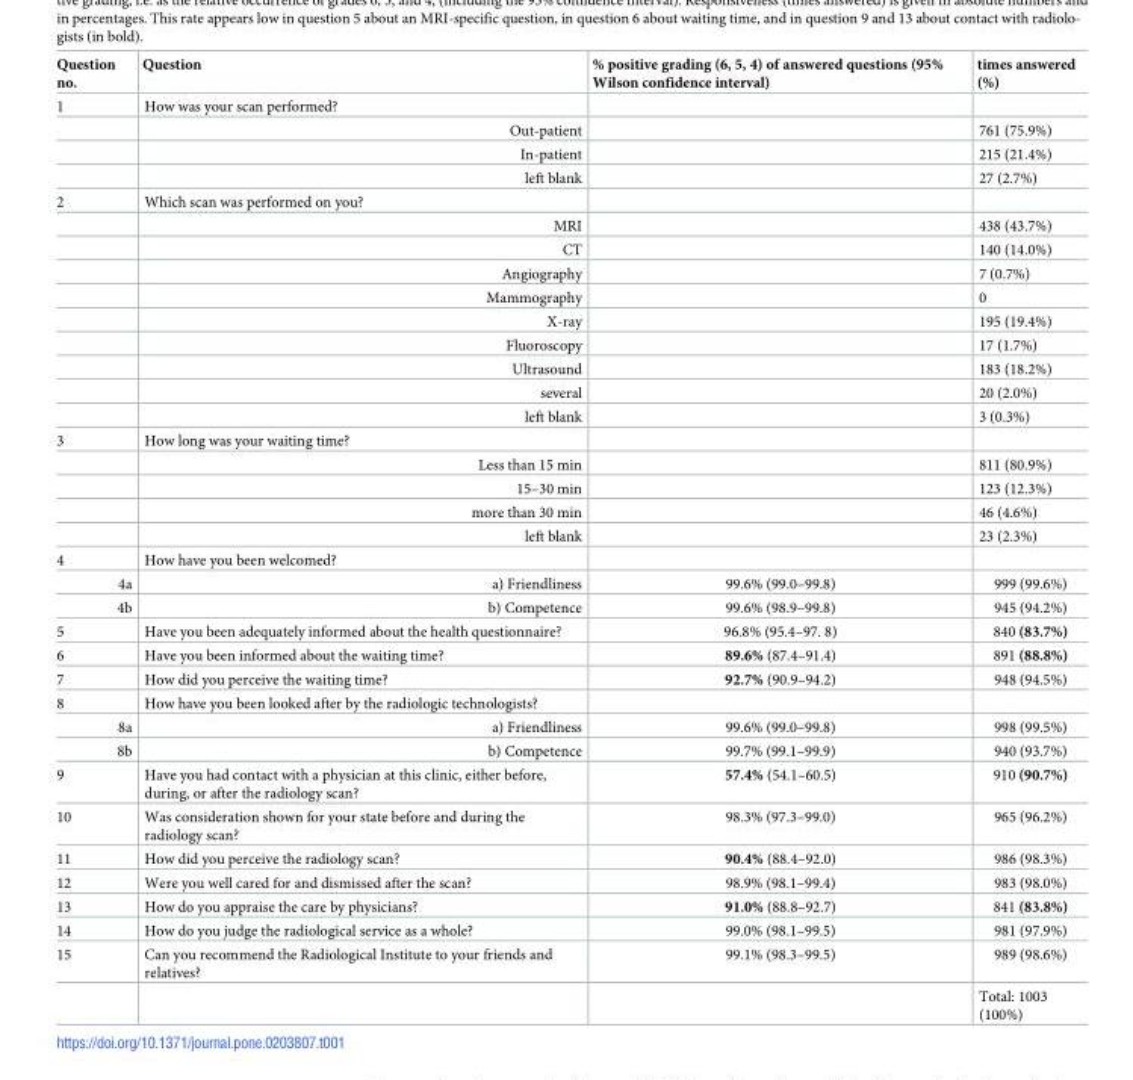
<table><thead><tr><td>Question no.</td><td>Question</td><td>% positive grading (6, 5, 4) of answered questions (95% Wilson confidence interval)</td><td>times answered (%)</td></tr></thead><tbody><tr><td rowspan="4">1</td><td>How was your scan performed?</td><td></td><td></td></tr><tr><td>Out-patient</td><td></td><td>761 (75.9%)</td></tr><tr><td>In-patient</td><td></td><td>215 (21.4%)</td></tr><tr><td>left blank</td><td></td><td>27 (2.7%)</td></tr><tr><td rowspan="10">2</td><td>Which scan was performed on you?</td><td></td><td></td></tr><tr><td>MRI</td><td></td><td>438 (43.7%)</td></tr><tr><td>CT</td><td></td><td>140 (14.0%)</td></tr><tr><td>Angiography</td><td></td><td>7 (0.7%)</td></tr><tr><td>Mammography</td><td></td><td>0</td></tr><tr><td>X-ray</td><td></td><td>195 (19.4%)</td></tr><tr><td>Fluoroscopy</td><td></td><td>17 (1.7%)</td></tr><tr><td>Ultrasound</td><td></td><td>183 (18.2%)</td></tr><tr><td>several</td><td></td><td>20 (2.0%)</td></tr><tr><td>left blank</td><td></td><td>3 (0.3%)</td></tr><tr><td rowspan="5">3</td><td>How long was your waiting time?</td><td></td><td></td></tr><tr><td>Less than 15 min</td><td></td><td>811 (80.9%)</td></tr><tr><td>15–30 min</td><td></td><td>123 (12.3%)</td></tr><tr><td>more than 30 min</td><td></td><td>46 (4.6%)</td></tr><tr><td>left blank</td><td></td><td>23 (2.3%)</td></tr><tr><td>4</td><td>How have you been welcomed?</td><td></td><td></td></tr><tr><td>4a</td><td>a) Friendliness</td><td>99.6% (99.0–99.8)</td><td>999 (99.6%)</td></tr><tr><td>4b</td><td>b) Competence</td><td>99.6% (98.9–99.8)</td><td>945 (94.2%)</td></tr><tr><td>5</td><td>Have you been adequately informed about the health questionnaire?</td><td>96.8% (95.4–97. 8)</td><td>840 (83.7%)</td></tr><tr><td>6</td><td>Have you been informed about the waiting time?</td><td>89.6% (87.4–91.4)</td><td>891 (88.8%)</td></tr><tr><td>7</td><td>How did you perceive the waiting time?</td><td>92.7% (90.9–94.2)</td><td>948 (94.5%)</td></tr><tr><td>8</td><td>How have you been looked after by the radiologic technologists?</td><td></td><td></td></tr><tr><td>8a</td><td>a) Friendliness</td><td>99.6% (99.0–99.8)</td><td>998 (99.5%)</td></tr><tr><td>8b</td><td>b) Competence</td><td>99.7% (99.1–99.9)</td><td>940 (93.7%)</td></tr><tr><td>9</td><td>Have you had contact with a physician at this clinic, either before, during, or after the radiology scan?</td><td>57.4% (54.1–60.5)</td><td>910 (90.7%)</td></tr><tr><td>10</td><td>Was consideration shown for your state before and during the radiology scan?</td><td>98.3% (97.3–99.0)</td><td>965 (96.2%)</td></tr><tr><td>11</td><td>How did you perceive the radiology scan?</td><td>90.4% (88.4–92.0)</td><td>986 (98.3%)</td></tr><tr><td>12</td><td>Were you well cared for and dismissed after the scan?</td><td>98.9% (98.1–99.4)</td><td>983 (98.0%)</td></tr><tr><td>13</td><td>How do you appraise the care by physicians?</td><td>91.0% (88.8–92.7)</td><td>841 (83.8%)</td></tr><tr><td>14</td><td>How do you judge the radiological service as a whole?</td><td>99.0% (98.1–99.5)</td><td>981 (97.9%)</td></tr><tr><td rowspan="2">15</td><td>Can you recommend the Radiological Institute to your friends and relatives?</td><td>99.1% (98.3–99.5)</td><td>989 (98.6%)</td></tr><tr><td></td><td></td><td>Total: 1003 (100%)</td></tr></tbody></table>